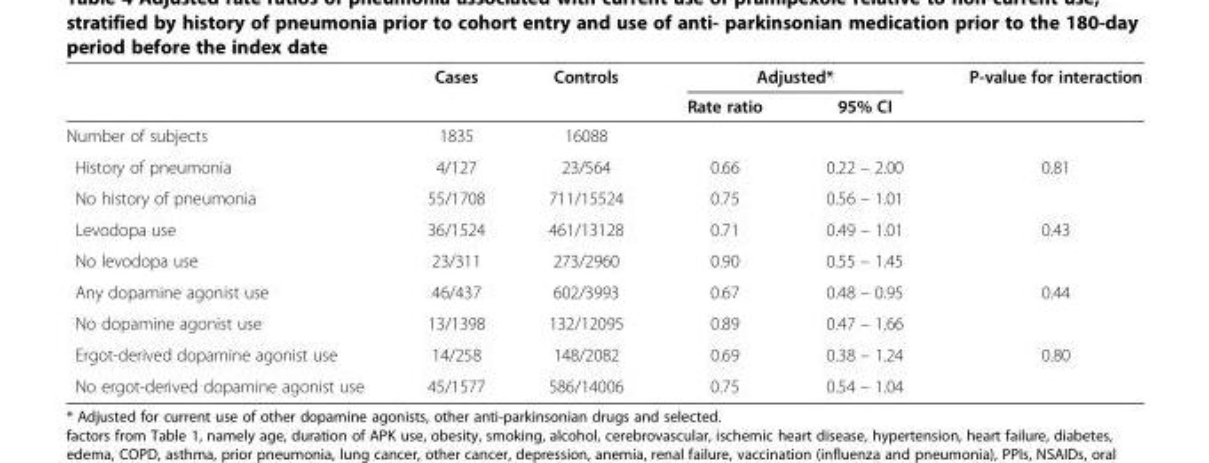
<table><thead><tr><td rowspan="2"></td><td rowspan="2">Cases</td><td rowspan="2">Controls</td><td colspan="2">Adjusted*</td><td rowspan="2">P-value for interaction</td></tr><tr><td>Rate ratio</td><td>95% CI</td></tr></thead><tbody><tr><td>Number of subjects</td><td>1835</td><td>16088</td><td></td><td></td><td></td></tr><tr><td>History of pneumonia</td><td>4/127</td><td>23/564</td><td>0.66</td><td>0.22 – 2.00</td><td>0.81</td></tr><tr><td>No history of pneumonia</td><td>55/1708</td><td>711/15524</td><td>0.75</td><td>0.56 – 1.01</td><td></td></tr><tr><td>Levodopa use</td><td>36/1524</td><td>461/13128</td><td>0.71</td><td>0.49 – 1.01</td><td>0.43</td></tr><tr><td>No levodopa use</td><td>23/311</td><td>273/2960</td><td>0.90</td><td>0.55 – 1.45</td><td></td></tr><tr><td>Any dopamine agonist use</td><td>46/437</td><td>602/3993</td><td>0.67</td><td>0.48 – 0.95</td><td>0.44</td></tr><tr><td>No dopamine agonist use</td><td>13/1398</td><td>132/12095</td><td>0.89</td><td>0.47 – 1.66</td><td></td></tr><tr><td>Ergot-derived dopamine agonist use</td><td>14/258</td><td>148/2082</td><td>0.69</td><td>0.38 – 1.24</td><td>0.80</td></tr><tr><td>No ergot-derived dopamine agonist use</td><td>45/1577</td><td>586/14006</td><td>0.75</td><td>0.54 – 1.04</td><td></td></tr></tbody></table>